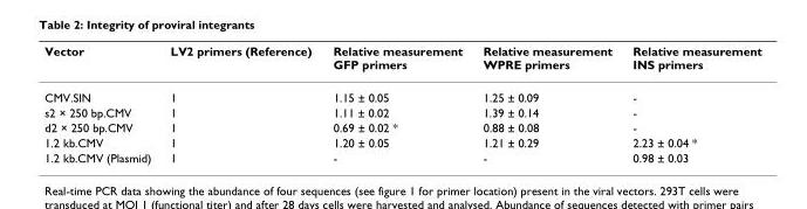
<table><thead><tr><td>Vector</td><td>LV2 primers (Reference)</td><td>Relative measurement GFP primers</td><td>Relative measurement WPRE primers</td><td>Relative measurement INS primers</td></tr></thead><tbody><tr><td>CMV.SIN</td><td>1</td><td>1.15 ± 0.05</td><td>1.25 ± 0.09</td><td>-</td></tr><tr><td>s2 × 250 bp.CMV</td><td>1</td><td>1.11 ± 0.02</td><td>1.39 ± 0.14</td><td>-</td></tr><tr><td>d2 × 250 bp.CMV</td><td>1</td><td>0.69 ± 0.02 *</td><td>0.88 ± 0.08</td><td>-</td></tr><tr><td>1.2 kb.CMV</td><td>1</td><td>1.20 ± 0.05</td><td>1.21 ± 0.29</td><td>2.23 ± 0.04 *</td></tr><tr><td>1.2 kb.CMV (Plasmid)</td><td>1</td><td>-</td><td>-</td><td>0.98 ± 0.03</td></tr></tbody></table>